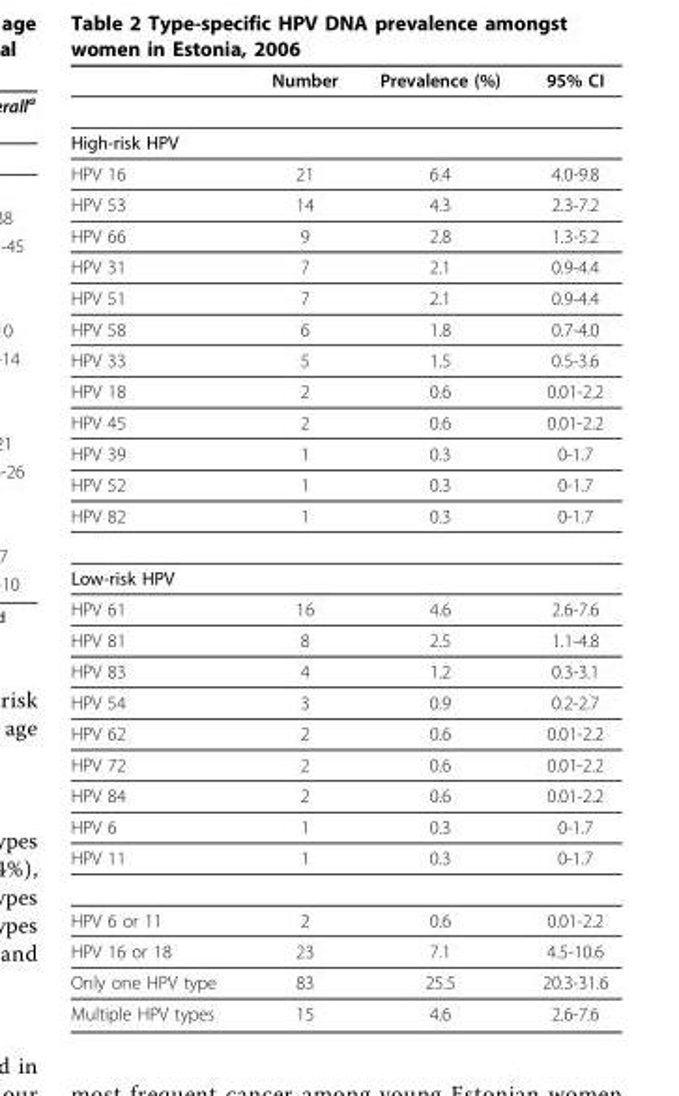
<table><thead><tr><td></td><td>Number</td><td>Prevalence (%)</td><td>95% CI</td></tr></thead><tbody><tr><td colspan="4">High-risk HPV</td></tr><tr><td>HPV 16</td><td>21</td><td>6.4</td><td>4.0-9.8</td></tr><tr><td>HPV 53</td><td>14</td><td>4.3</td><td>2.3-7.2</td></tr><tr><td>HPV 66</td><td>9</td><td>2.8</td><td>1.3-5.2</td></tr><tr><td>HPV 31</td><td>7</td><td>2.1</td><td>0.9-4.4</td></tr><tr><td>HPV 51</td><td>7</td><td>2.1</td><td>0.9-4.4</td></tr><tr><td>HPV 58</td><td>6</td><td>1.8</td><td>0.7-4.0</td></tr><tr><td>HPV 33</td><td>5</td><td>1.5</td><td>0.5-3.6</td></tr><tr><td>HPV 18</td><td>2</td><td>0.6</td><td>0.01-2.2</td></tr><tr><td>HPV 45</td><td>2</td><td>0.6</td><td>0.01-2.2</td></tr><tr><td>HPV 39</td><td>1</td><td>0.3</td><td>0-1.7</td></tr><tr><td>HPV 52</td><td>1</td><td>0.3</td><td>0-1.7</td></tr><tr><td>HPV 82</td><td>1</td><td>0.3</td><td>0-1.7</td></tr><tr><td colspan="4">Low-risk HPV</td></tr><tr><td>HPV 61</td><td>16</td><td>4.6</td><td>2.6-7.6</td></tr><tr><td>HPV 81</td><td>8</td><td>2.5</td><td>1.1-4.8</td></tr><tr><td>HPV 83</td><td>4</td><td>1.2</td><td>0.3-3.1</td></tr><tr><td>HPV 54</td><td>3</td><td>0.9</td><td>0.2-2.7</td></tr><tr><td>HPV 62</td><td>2</td><td>0.6</td><td>0.01-2.2</td></tr><tr><td>HPV 72</td><td>2</td><td>0.6</td><td>0.01-2.2</td></tr><tr><td>HPV 84</td><td>2</td><td>0.6</td><td>0.01-2.2</td></tr><tr><td>HPV 6</td><td>1</td><td>0.3</td><td>0-1.7</td></tr><tr><td>HPV 11</td><td>1</td><td>0.3</td><td>0-1.7</td></tr><tr><td>HPV 6 or 11</td><td>2</td><td>0.6</td><td>0.01-2.2</td></tr><tr><td>HPV 16 or 18</td><td>23</td><td>7.1</td><td>4.5-10.6</td></tr><tr><td>Only one HPV type</td><td>83</td><td>25.5</td><td>20.3-31.6</td></tr><tr><td>Multiple HPV types</td><td>15</td><td>4.6</td><td>2.6-7.6</td></tr></tbody></table>